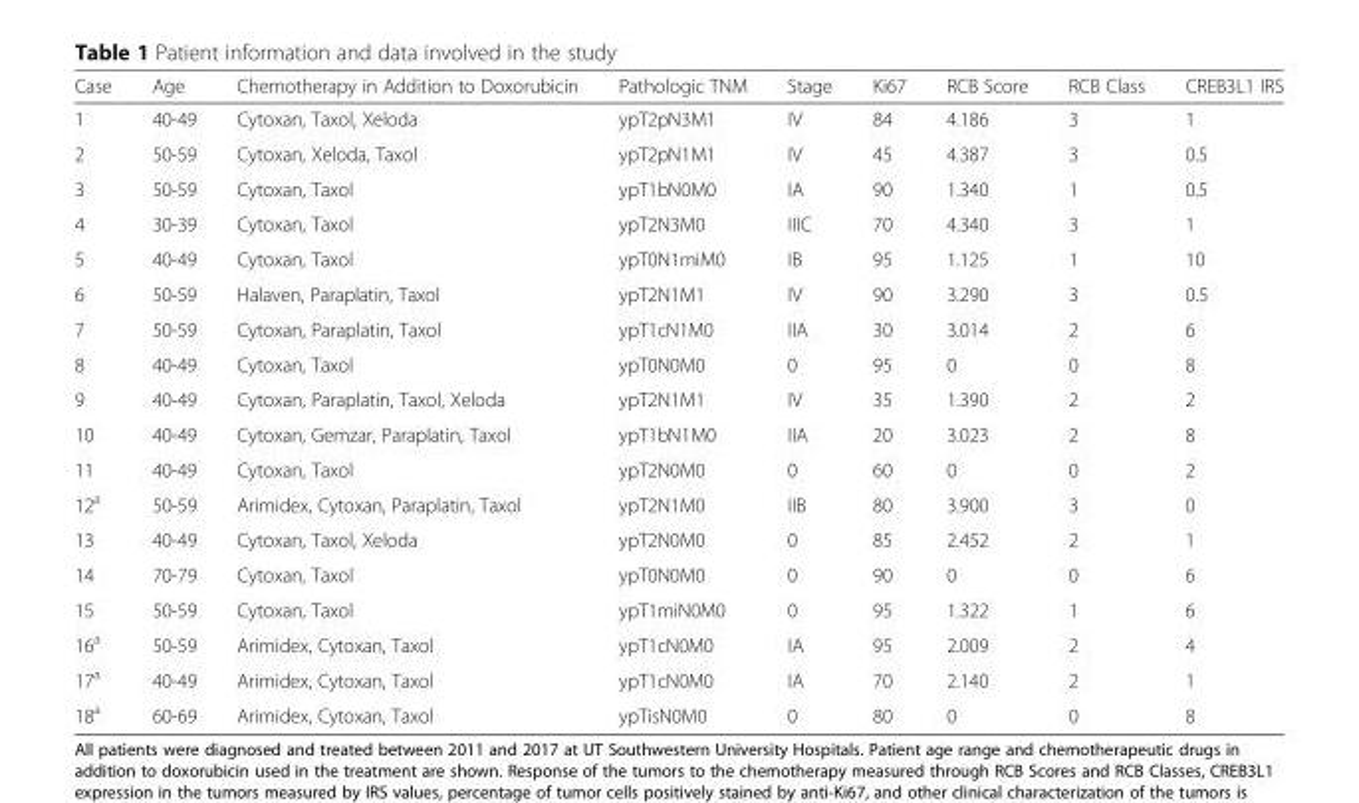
<table><thead><tr><td>Case</td><td>Age</td><td>Chemotherapy in Addition to Doxorubicin</td><td>Pathologic TNM</td><td>Stage</td><td>Ki67</td><td>RCB Score</td><td>RCB Class</td><td>CREB3L1 IRS</td></tr></thead><tbody><tr><td>1</td><td>40-49</td><td>Cytoxan, Taxol, Xeloda</td><td>ypT2pN3M1</td><td>IV</td><td>84</td><td>4.186</td><td>3</td><td>1</td></tr><tr><td>2</td><td>50-59</td><td>Cytoxan, Xeloda, Taxol</td><td>ypT2pN1M1</td><td>IV</td><td>45</td><td>4.387</td><td>3</td><td>0.5</td></tr><tr><td>3</td><td>50-59</td><td>Cytoxan, Taxol</td><td>ypT1bN0M0</td><td>IA</td><td>90</td><td>1.340</td><td>1</td><td>0.5</td></tr><tr><td>4</td><td>30-39</td><td>Cytoxan, Taxol</td><td>ypT2N3M0</td><td>IIIC</td><td>70</td><td>4.340</td><td>3</td><td>1</td></tr><tr><td>5</td><td>40-49</td><td>Cytoxan, Taxol</td><td>ypT0N1miM0</td><td>IB</td><td>95</td><td>1.125</td><td>1</td><td>10</td></tr><tr><td>6</td><td>50-59</td><td>Halaven, Paraplatin, Taxol</td><td>ypT2N1M1</td><td>IV</td><td>90</td><td>3.290</td><td>3</td><td>0.5</td></tr><tr><td>7</td><td>50-59</td><td>Cytoxan, Paraplatin, Taxol</td><td>ypT1cN1M0</td><td>IIA</td><td>30</td><td>3.014</td><td>2</td><td>6</td></tr><tr><td>8</td><td>40-49</td><td>Cytoxan, Taxol</td><td>ypT0N0M0</td><td>0</td><td>95</td><td>0</td><td>0</td><td>8</td></tr><tr><td>9</td><td>40-49</td><td>Cytoxan, Paraplatin, Taxol, Xeloda</td><td>ypT2N1M1</td><td>IV</td><td>35</td><td>1.390</td><td>2</td><td>2</td></tr><tr><td>10</td><td>40-49</td><td>Cytoxan, Gemzar, Paraplatin, Taxol</td><td>ypT1bN1M0</td><td>IIA</td><td>20</td><td>3.023</td><td>2</td><td>8</td></tr><tr><td>11</td><td>40-49</td><td>Cytoxan, Taxol</td><td>ypT2N0M0</td><td>0</td><td>60</td><td>0</td><td>0</td><td>2</td></tr><tr><td>12<sup>a</sup></td><td>50-59</td><td>Arimidex, Cytoxan, Paraplatin, Taxol</td><td>ypT2N1M0</td><td>IIB</td><td>80</td><td>3.900</td><td>3</td><td>0</td></tr><tr><td>13</td><td>40-49</td><td>Cytoxan, Taxol, Xeloda</td><td>ypT2N0M0</td><td>0</td><td>85</td><td>2.452</td><td>2</td><td>1</td></tr><tr><td>14</td><td>70-79</td><td>Cytoxan, Taxol</td><td>ypT0N0M0</td><td>0</td><td>90</td><td>0</td><td>0</td><td>6</td></tr><tr><td>15</td><td>50-59</td><td>Cytoxan, Taxol</td><td>ypT1miN0M0</td><td>0</td><td>95</td><td>1.322</td><td>1</td><td>6</td></tr><tr><td>16<sup>a</sup></td><td>50-59</td><td>Arimidex, Cytoxan, Taxol</td><td>ypT1cN0M0</td><td>IA</td><td>95</td><td>2.009</td><td>2</td><td>4</td></tr><tr><td>17<sup>a</sup></td><td>40-49</td><td>Arimidex, Cytoxan, Taxol</td><td>ypT1cN0M0</td><td>IA</td><td>70</td><td>2.140</td><td>2</td><td>1</td></tr><tr><td>18<sup>a</sup></td><td>60-69</td><td>Arimidex, Cytoxan, Taxol</td><td>ypTisN0M0</td><td>0</td><td>80</td><td>0</td><td>0</td><td>8</td></tr></tbody></table>